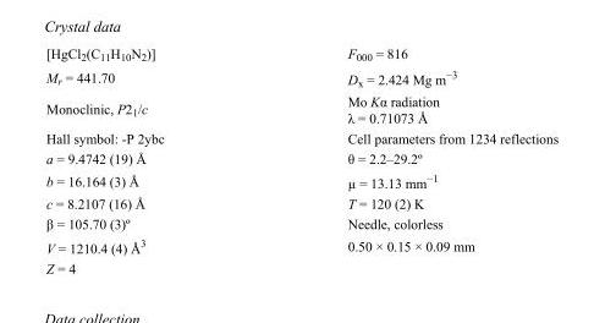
<table><tbody><tr><td>[HgCl<sub>2</sub>(C<sub>11</sub>H<sub>10</sub>N<sub>2</sub>)]</td><td>F000 = 816</td></tr><tr><td>M<sub>r</sub> = 441.70</td><td>D<sub>x</sub> = 2.424 Mg m<sup>−3</sup></td></tr><tr><td>Monoclinic, P2<sub>1</sub>/c</td><td>Mo Kα radiation λ = 0.71073 Å</td></tr><tr><td>Hall symbol: -P 2ybc</td><td>Cell parameters from 1234 reflections</td></tr><tr><td>a = 9.4742 (19) Å</td><td>θ = 2.2–29.2º</td></tr><tr><td>b = 16.164 (3) Å</td><td>µ = 13.13 mm<sup>−1</sup></td></tr><tr><td>c = 8.2107 (16) Å</td><td>T = 120 (2) K</td></tr><tr><td>β = 105.70 (3)º</td><td>Needle, colorless</td></tr><tr><td>V = 1210.4 (4) Å<sup>3</sup></td><td>0.50 × 0.15 × 0.09 mm</td></tr><tr><td>Z = 4</td><td></td></tr></tbody></table>